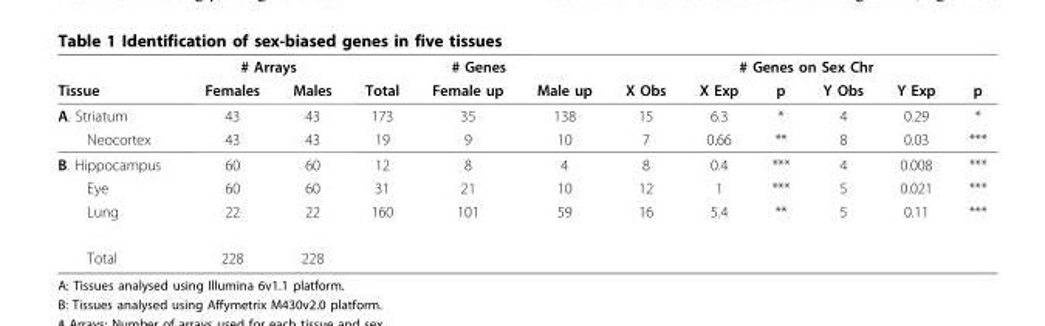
<table><thead><tr><td rowspan="2">Tissue</td><td colspan="2"># Arrays</td><td colspan="3"># Genes</td><td colspan="6"># Genes on Sex Chr</td></tr><tr><td>Females</td><td>Males</td><td>Total</td><td>Female up</td><td>Male up</td><td>X Obs</td><td>X Exp</td><td>p</td><td>Y Obs</td><td>Y Exp</td><td>p</td></tr></thead><tbody><tr><td>A. Striatum</td><td>43</td><td>43</td><td>173</td><td>35</td><td>138</td><td>15</td><td>6.3</td><td>*</td><td>4</td><td>0.29</td><td>*</td></tr><tr><td>Neocortex</td><td>43</td><td>43</td><td>19</td><td>9</td><td>10</td><td>7</td><td>0.66</td><td>**</td><td>8</td><td>0.03</td><td>***</td></tr><tr><td>B. Hippocampus</td><td>60</td><td>60</td><td>12</td><td>8</td><td>4</td><td>8</td><td>0.4</td><td>***</td><td>4</td><td>0.008</td><td>***</td></tr><tr><td>Eye</td><td>60</td><td>60</td><td>31</td><td>21</td><td>10</td><td>12</td><td>1</td><td>***</td><td>5</td><td>0.021</td><td>***</td></tr><tr><td>Lung</td><td>22</td><td>22</td><td>160</td><td>101</td><td>59</td><td>16</td><td>5.4</td><td>**</td><td>5</td><td>0.11</td><td>***</td></tr><tr><td>Total</td><td>228</td><td>228</td><td></td><td></td><td></td><td></td><td></td><td></td><td></td><td></td><td></td></tr></tbody></table>